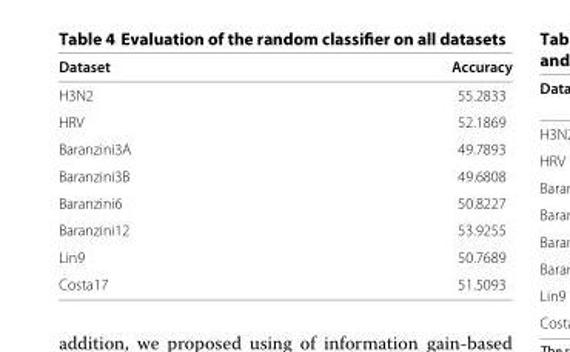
<table><thead><tr><td>Dataset</td><td>Accuracy</td></tr></thead><tbody><tr><td>H3N2</td><td>55.2833</td></tr><tr><td>HRV</td><td>52.1869</td></tr><tr><td>Baranzini3A</td><td>49.7893</td></tr><tr><td>Baranzini3B</td><td>49.6808</td></tr><tr><td>Baranzini6</td><td>50.8227</td></tr><tr><td>Baranzini12</td><td>53.9255</td></tr><tr><td>Lin9</td><td>50.7689</td></tr><tr><td>Costa17</td><td>51.5093</td></tr></tbody></table>